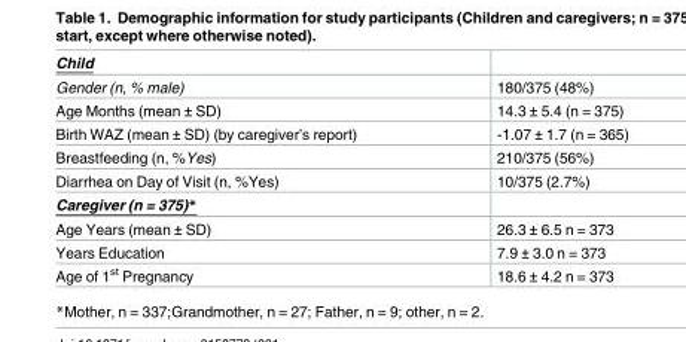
<table><tbody><tr><td colspan="2">Child</td></tr><tr><td>Gender (n, % male)</td><td>180/375 (48%)</td></tr><tr><td>Age Months (mean ± SD)</td><td>14.3 ± 5.4 (n = 375)</td></tr><tr><td>Birth WAZ (mean ± SD) (by caregiver’s report)</td><td>-1.07 ± 1.7 (n = 365)</td></tr><tr><td>Breastfeeding (n, %Yes)</td><td>210/375 (56%)</td></tr><tr><td>Diarrhea on Day of Visit (n, %Yes)</td><td>10/375 (2.7%)</td></tr><tr><td colspan="2">Caregiver (n = 375)*</td></tr><tr><td>Age Years (mean ± SD)</td><td>26.3 ± 6.5 n = 373</td></tr><tr><td>Years Education</td><td>7.9 ± 3.0 n = 373</td></tr><tr><td>Age of 1<sup>st</sup> Pregnancy</td><td>18.6 ± 4.2 n = 373</td></tr></tbody></table>